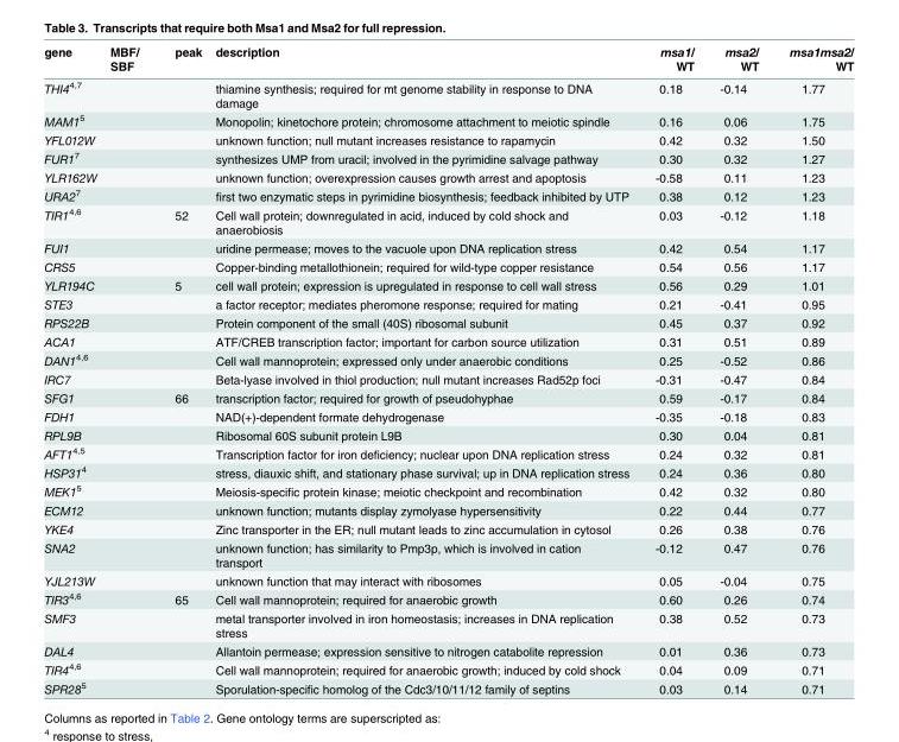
<table><thead><tr><td>gene</td><td>MBF/ SBF</td><td>peak</td><td>description</td><td>msa1/ WT</td><td>msa2/ WT</td><td>msa1msa2/ WT</td></tr></thead><tbody><tr><td>THI4<sup>4,7</sup></td><td></td><td></td><td>thiamine synthesis; required for mt genome stability in response to DNA damage</td><td>0.18</td><td>-0.14</td><td>1.77</td></tr><tr><td>MAM1<sup>5</sup></td><td></td><td></td><td>Monopolin; kinetochore protein; chromosome attachment to meiotic spindle</td><td>0.16</td><td>0.06</td><td>1.75</td></tr><tr><td>YFL012W</td><td></td><td></td><td>unknown function; null mutant increases resistance to rapamycin</td><td>0.42</td><td>0.32</td><td>1.50</td></tr><tr><td>FUR1<sup>7</sup></td><td></td><td></td><td>synthesizes UMP from uracil; involved in the pyrimidine salvage pathway</td><td>0.30</td><td>0.32</td><td>1.27</td></tr><tr><td>YLR162W</td><td></td><td></td><td>unknown function; overexpression causes growth arrest and apoptosis</td><td>-0.58</td><td>0.11</td><td>1.23</td></tr><tr><td>URA2<sup>7</sup></td><td></td><td></td><td>first two enzymatic steps in pyrimidine biosynthesis; feedback inhibited by UTP</td><td>0.38</td><td>0.12</td><td>1.23</td></tr><tr><td>TIR1<sup>4,6</sup></td><td></td><td>52</td><td>Cell wall protein; downregulated in acid, induced by cold shock and anaerobiosis</td><td>0.03</td><td>-0.12</td><td>1.18</td></tr><tr><td>FUI1</td><td></td><td></td><td>uridine permease; moves to the vacuole upon DNA replication stress</td><td>0.42</td><td>0.54</td><td>1.17</td></tr><tr><td>CRS5</td><td></td><td></td><td>Copper-binding metallothionein; required for wild-type copper resistance</td><td>0.54</td><td>0.56</td><td>1.17</td></tr><tr><td>YLR194C</td><td></td><td>5</td><td>cell wall protein; expression is upregulated in response to cell wall stress</td><td>0.56</td><td>0.29</td><td>1.01</td></tr><tr><td>STE3</td><td></td><td></td><td>a factor receptor; mediates pheromone response; required for mating</td><td>0.21</td><td>-0.41</td><td>0.95</td></tr><tr><td>RPS22B</td><td></td><td></td><td>Protein component of the small (40S) ribosomal subunit</td><td>0.45</td><td>0.37</td><td>0.92</td></tr><tr><td>ACA1</td><td></td><td></td><td>ATF/CREB transcription factor; important for carbon source utilization</td><td>0.31</td><td>0.51</td><td>0.89</td></tr><tr><td>DAN1<sup>4,6</sup></td><td></td><td></td><td>Cell wall mannoprotein; expressed only under anaerobic conditions</td><td>0.25</td><td>-0.52</td><td>0.86</td></tr><tr><td>IRC7</td><td></td><td></td><td>Beta-lyase involved in thiol production; null mutant increases Rad52p foci</td><td>-0.31</td><td>-0.47</td><td>0.84</td></tr><tr><td>SFG1</td><td></td><td>66</td><td>transcription factor; required for growth of pseudohyphae</td><td>0.59</td><td>-0.17</td><td>0.84</td></tr><tr><td>FDH1</td><td></td><td></td><td>NAD(+)-dependent formate dehydrogenase</td><td>-0.35</td><td>-0.18</td><td>0.83</td></tr><tr><td>RPL9B</td><td></td><td></td><td>Ribosomal 60S subunit protein L9B</td><td>0.30</td><td>0.04</td><td>0.81</td></tr><tr><td>AFT1<sup>4,5</sup></td><td></td><td></td><td>Transcription factor for iron deficiency; nuclear upon DNA replication stress</td><td>0.24</td><td>0.32</td><td>0.81</td></tr><tr><td>HSP31<sup>4</sup></td><td></td><td></td><td>stress, diauxic shift, and stationary phase survival; up in DNA replication stress</td><td>0.24</td><td>0.36</td><td>0.80</td></tr><tr><td>MEK1<sup>5</sup></td><td></td><td></td><td>Meiosis-specific protein kinase; meiotic checkpoint and recombination</td><td>0.42</td><td>0.32</td><td>0.80</td></tr><tr><td>ECM12</td><td></td><td></td><td>unknown function; mutants display zymolyase hypersensitivity</td><td>0.22</td><td>0.44</td><td>0.77</td></tr><tr><td>YKE4</td><td></td><td></td><td>Zinc transporter in the ER; null mutant leads to zinc accumulation in cytosol</td><td>0.26</td><td>0.38</td><td>0.76</td></tr><tr><td>SNA2</td><td></td><td></td><td>unknown function; has similarity to Pmp3p, which is involved in cation transport</td><td>-0.12</td><td>0.47</td><td>0.76</td></tr><tr><td>YJL213W</td><td></td><td></td><td>unknown function that may interact with ribosomes</td><td>0.05</td><td>-0.04</td><td>0.75</td></tr><tr><td>TIR3<sup>4,6</sup></td><td></td><td>65</td><td>Cell wall mannoprotein; required for anaerobic growth</td><td>0.60</td><td>0.26</td><td>0.74</td></tr><tr><td>SMF3</td><td></td><td></td><td>metal transporter involved in iron homeostasis; increases in DNA replication stress</td><td>0.38</td><td>0.52</td><td>0.73</td></tr><tr><td>DAL4</td><td></td><td></td><td>Allantoin permease; expression sensitive to nitrogen catabolite repression</td><td>0.01</td><td>0.36</td><td>0.73</td></tr><tr><td>TIR4<sup>4,6</sup></td><td></td><td></td><td>Cell wall mannoprotein; required for anaerobic growth; induced by cold shock</td><td>0.04</td><td>0.09</td><td>0.71</td></tr><tr><td>SPR28<sup>5</sup></td><td></td><td></td><td>Sporulation-specific homolog of the Cdc3/10/11/12 family of septins</td><td>0.03</td><td>0.14</td><td>0.71</td></tr></tbody></table>